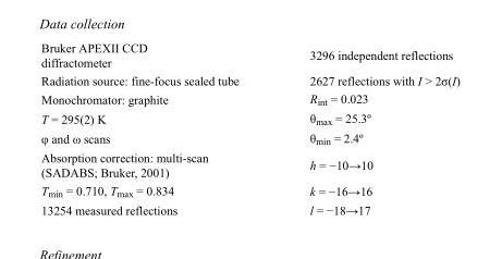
<table><tbody><tr><td>Bruker APEXII CCD diffractometer</td><td>3296 independent reflections</td></tr><tr><td>Radiation source: fine-focus sealed tube</td><td>2627 reflections with I &gt; 2σ(I)</td></tr><tr><td>Monochromator: graphite</td><td>R<sub>int</sub> = 0.023</td></tr><tr><td>T = 295(2) K</td><td>θ<sub>max</sub> = 25.3º</td></tr><tr><td>φ and ω scans</td><td>θ<sub>min</sub> = 2.4º</td></tr><tr><td>Absorption correction: multi-scan (SADABS; Bruker, 2001)</td><td>h = −10→10</td></tr><tr><td>T<sub>min</sub> = 0.710, T<sub>max</sub> = 0.834</td><td>k = −16→16</td></tr><tr><td>13254 measured reflections</td><td>l = −18→17</td></tr></tbody></table>